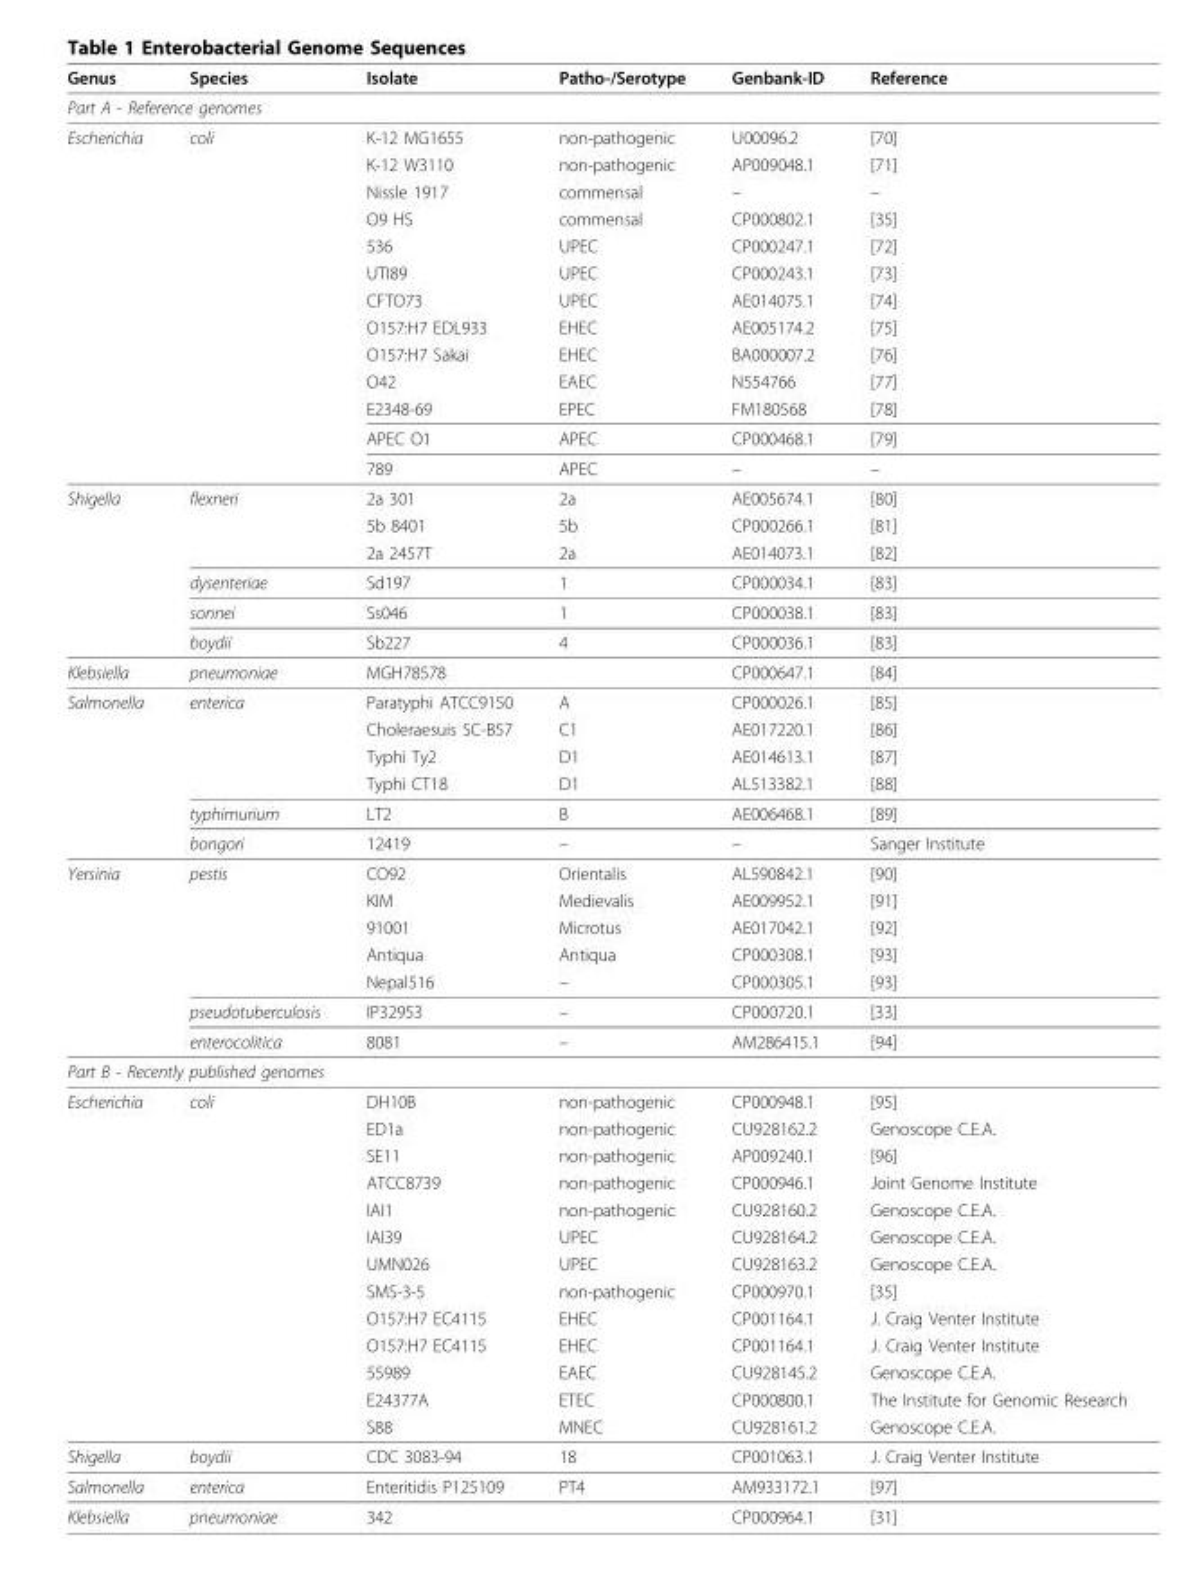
<table><thead><tr><td>Genus</td><td>Species</td><td>Isolate</td><td>Patho-/Serotype</td><td>Genbank-ID</td><td>Reference</td></tr></thead><tbody><tr><td colspan="6">Part A - Reference genomes</td></tr><tr><td rowspan="13">Escherichia</td><td>coli</td><td>K-12 MG1655</td><td>non-pathogenic</td><td>U00096.2</td><td>[70]</td></tr><tr><td></td><td>K-12 W3110</td><td>non-pathogenic</td><td>AP009048.1</td><td>[71]</td></tr><tr><td></td><td>Nissle 1917</td><td>commensal</td><td>–</td><td>–</td></tr><tr><td></td><td>O9 HS</td><td>commensal</td><td>CP000802.1</td><td>[35]</td></tr><tr><td></td><td>536</td><td>UPEC</td><td>CP000247.1</td><td>[72]</td></tr><tr><td></td><td>UTI89</td><td>UPEC</td><td>CP000243.1</td><td>[73]</td></tr><tr><td></td><td>CFTO73</td><td>UPEC</td><td>AE014075.1</td><td>[74]</td></tr><tr><td></td><td>O157:H7 EDL933</td><td>EHEC</td><td>AE005174.2</td><td>[75]</td></tr><tr><td></td><td>O157:H7 Sakai</td><td>EHEC</td><td>BA000007.2</td><td>[76]</td></tr><tr><td></td><td>O42</td><td>EAEC</td><td>N554766</td><td>[77]</td></tr><tr><td></td><td>E2348-69</td><td>EPEC</td><td>FM180568</td><td>[78]</td></tr><tr><td></td><td>APEC O1</td><td>APEC</td><td>CP000468.1</td><td>[79]</td></tr><tr><td></td><td>789</td><td>APEC</td><td>–</td><td>–</td></tr><tr><td rowspan="6">Shigella</td><td>flexneri</td><td>2a 301</td><td>2a</td><td>AE005674.1</td><td>[80]</td></tr><tr><td></td><td>5b 8401</td><td>5b</td><td>CP000266.1</td><td>[81]</td></tr><tr><td></td><td>2a 2457T</td><td>2a</td><td>AE014073.1</td><td>[82]</td></tr><tr><td>dysenteriae</td><td>Sd197</td><td>1</td><td>CP000034.1</td><td>[83]</td></tr><tr><td>sonnei</td><td>Ss046</td><td>1</td><td>CP000038.1</td><td>[83]</td></tr><tr><td>boydii</td><td>Sb227</td><td>4</td><td>CP000036.1</td><td>[83]</td></tr><tr><td>Klebsiella</td><td>pneumoniae</td><td>MGH78578</td><td></td><td>CP000647.1</td><td>[84]</td></tr><tr><td rowspan="6">Salmonella</td><td>enterica</td><td>Paratyphi ATCC9150</td><td>A</td><td>CP000026.1</td><td>[85]</td></tr><tr><td></td><td>Choleraesuis SC-B57</td><td>C1</td><td>AE017220.1</td><td>[86]</td></tr><tr><td></td><td>Typhi Ty2</td><td>D1</td><td>AE014613.1</td><td>[87]</td></tr><tr><td></td><td>Typhi CT18</td><td>D1</td><td>AL513382.1</td><td>[88]</td></tr><tr><td>typhimurium</td><td>LT2</td><td>B</td><td>AE006468.1</td><td>[89]</td></tr><tr><td>bongori</td><td>12419</td><td>–</td><td>–</td><td>Sanger Institute</td></tr><tr><td rowspan="7">Yersinia</td><td>pestis</td><td>CO92</td><td>Orientalis</td><td>AL590842.1</td><td>[90]</td></tr><tr><td></td><td>KIM</td><td>Medievalis</td><td>AE009952.1</td><td>[91]</td></tr><tr><td></td><td>91001</td><td>Microtus</td><td>AE017042.1</td><td>[92]</td></tr><tr><td></td><td>Antiqua</td><td>Antiqua</td><td>CP000308.1</td><td>[93]</td></tr><tr><td></td><td>Nepal516</td><td>–</td><td>CP000305.1</td><td>[93]</td></tr><tr><td>pseudotuberculosis</td><td>IP32953</td><td>–</td><td>CP000720.1</td><td>[33]</td></tr><tr><td>enterocolitica</td><td>8081</td><td>–</td><td>AM286415.1</td><td>[94]</td></tr><tr><td colspan="6">Part B - Recently published genomes</td></tr><tr><td rowspan="13">Escherichia</td><td>coli</td><td>DH10B</td><td>non-pathogenic</td><td>CP000948.1</td><td>[95]</td></tr><tr><td></td><td>ED1a</td><td>non-pathogenic</td><td>CU928162.2</td><td>Genoscope C.E.A.</td></tr><tr><td></td><td>SE11</td><td>non-pathogenic</td><td>AP009240.1</td><td>[96]</td></tr><tr><td></td><td>ATCC8739</td><td>non-pathogenic</td><td>CP000946.1</td><td>Joint Genome Institute</td></tr><tr><td></td><td>IAI1</td><td>non-pathogenic</td><td>CU928160.2</td><td>Genoscope C.E.A.</td></tr><tr><td></td><td>IAI39</td><td>UPEC</td><td>CU928164.2</td><td>Genoscope C.E.A.</td></tr><tr><td></td><td>UMN026</td><td>UPEC</td><td>CU928163.2</td><td>Genoscope C.E.A.</td></tr><tr><td></td><td>SMS-3-5</td><td>non-pathogenic</td><td>CP000970.1</td><td>[35]</td></tr><tr><td></td><td>O157:H7 EC4115</td><td>EHEC</td><td>CP001164.1</td><td>J. Craig Venter Institute</td></tr><tr><td></td><td>O157:H7 EC4115</td><td>EHEC</td><td>CP001164.1</td><td>J. Craig Venter Institute</td></tr><tr><td></td><td>55989</td><td>EAEC</td><td>CU928145.2</td><td>Genoscope C.E.A.</td></tr><tr><td></td><td>E24377A</td><td>ETEC</td><td>CP000800.1</td><td>The Institute for Genomic Research</td></tr><tr><td></td><td>S88</td><td>MNEC</td><td>CU928161.2</td><td>Genoscope C.E.A.</td></tr><tr><td>Shigella</td><td>boydii</td><td>CDC 3083-94</td><td>18</td><td>CP001063.1</td><td>J. Craig Venter Institute</td></tr><tr><td>Salmonella</td><td>enterica</td><td>Enteritidis P125109</td><td>PT4</td><td>AM933172.1</td><td>[97]</td></tr><tr><td>Klebsiella</td><td>pneumoniae</td><td>342</td><td></td><td>CP000964.1</td><td>[31]</td></tr></tbody></table>